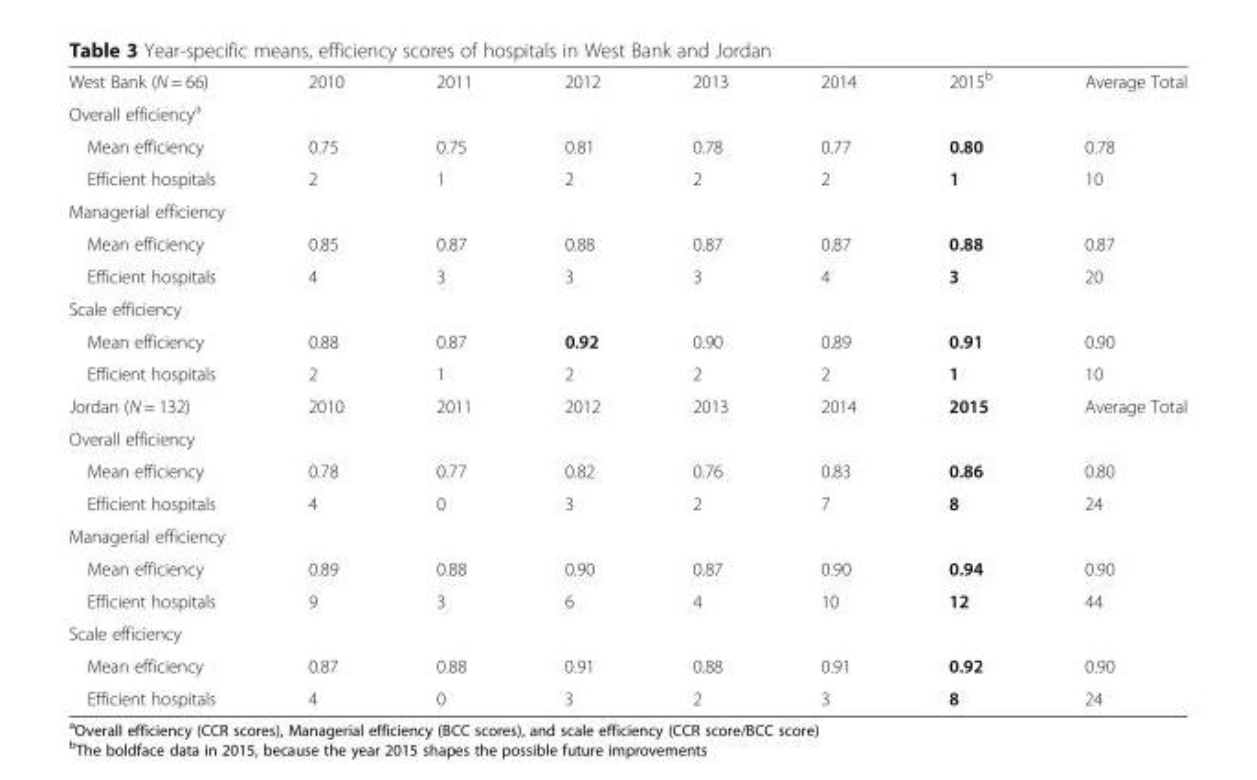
<table><tbody><tr><td>West Bank (N = 66)</td><td>2010</td><td>2011</td><td>2012</td><td>2013</td><td>2014</td><td>2015<sup>b</sup></td><td>Average Total</td></tr><tr><td colspan="8">Overall efficiency<sup>a</sup></td></tr><tr><td>Mean efficiency</td><td>0.75</td><td>0.75</td><td>0.81</td><td>0.78</td><td>0.77</td><td>0.80</td><td>0.78</td></tr><tr><td>Efficient hospitals</td><td>2</td><td>1</td><td>2</td><td>2</td><td>2</td><td>1</td><td>10</td></tr><tr><td colspan="8">Managerial efficiency</td></tr><tr><td>Mean efficiency</td><td>0.85</td><td>0.87</td><td>0.88</td><td>0.87</td><td>0.87</td><td>0.88</td><td>0.87</td></tr><tr><td>Efficient hospitals</td><td>4</td><td>3</td><td>3</td><td>3</td><td>4</td><td>3</td><td>20</td></tr><tr><td colspan="8">Scale efficiency</td></tr><tr><td>Mean efficiency</td><td>0.88</td><td>0.87</td><td>0.92</td><td>0.90</td><td>0.89</td><td>0.91</td><td>0.90</td></tr><tr><td>Efficient hospitals</td><td>2</td><td>1</td><td>2</td><td>2</td><td>2</td><td>1</td><td>10</td></tr><tr><td>Jordan (N = 132)</td><td>2010</td><td>2011</td><td>2012</td><td>2013</td><td>2014</td><td>2015</td><td>Average Total</td></tr><tr><td colspan="8">Overall efficiency</td></tr><tr><td>Mean efficiency</td><td>0.78</td><td>0.77</td><td>0.82</td><td>0.76</td><td>0.83</td><td>0.86</td><td>0.80</td></tr><tr><td>Efficient hospitals</td><td>4</td><td>0</td><td>3</td><td>2</td><td>7</td><td>8</td><td>24</td></tr><tr><td colspan="8">Managerial efficiency</td></tr><tr><td>Mean efficiency</td><td>0.89</td><td>0.88</td><td>0.90</td><td>0.87</td><td>0.90</td><td>0.94</td><td>0.90</td></tr><tr><td>Efficient hospitals</td><td>9</td><td>3</td><td>6</td><td>4</td><td>10</td><td>12</td><td>44</td></tr><tr><td colspan="8">Scale efficiency</td></tr><tr><td>Mean efficiency</td><td>0.87</td><td>0.88</td><td>0.91</td><td>0.88</td><td>0.91</td><td>0.92</td><td>0.90</td></tr><tr><td>Efficient hospitals</td><td>4</td><td>0</td><td>3</td><td>2</td><td>3</td><td>8</td><td>24</td></tr></tbody></table>